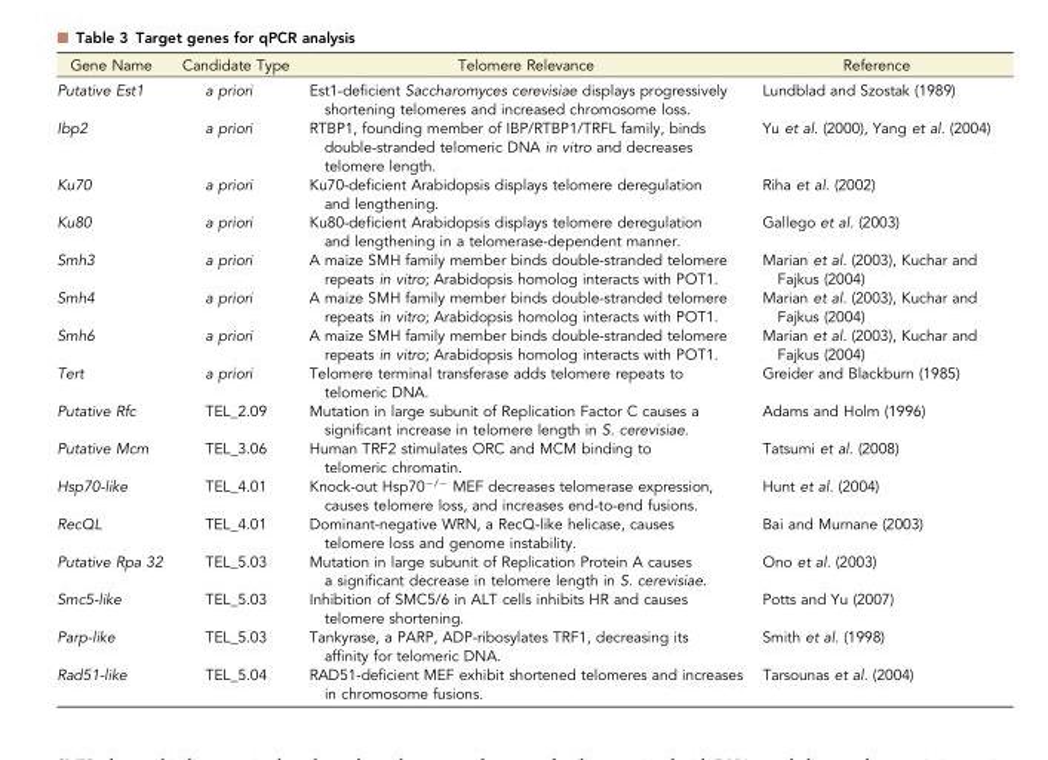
<table><thead><tr><td>Gene Name</td><td>Candidate Type</td><td>Telomere Relevance</td><td>Reference</td></tr></thead><tbody><tr><td>Putative Est1</td><td>a priori</td><td>Est1-deficient Saccharomyces cerevisiae displays progressively shortening telomeres and increased chromosome loss.</td><td>Lundblad and Szostak (1989)</td></tr><tr><td>Ibp2</td><td>a priori</td><td>RTBP1, founding member of IBP/RTBP1/TRFL family, binds double-stranded telomeric DNA in vitro and decreases telomere length.</td><td>Yu et al. (2000), Yang et al. (2004)</td></tr><tr><td>Ku70</td><td>a priori</td><td>Ku70-deficient Arabidopsis displays telomere deregulation and lengthening.</td><td>Riha et al. (2002)</td></tr><tr><td>Ku80</td><td>a priori</td><td>Ku80-deficient Arabidopsis displays telomere deregulation and lengthening in a telomerase-dependent manner.</td><td>Gallego et al. (2003)</td></tr><tr><td>Smh3</td><td>a priori</td><td>A maize SMH family member binds double-stranded telomere repeats in vitro; Arabidopsis homolog interacts with POT1.</td><td>Marian et al. (2003), Kuchar and Fajkus (2004)</td></tr><tr><td>Smh4</td><td>a priori</td><td>A maize SMH family member binds double-stranded telomere repeats in vitro; Arabidopsis homolog interacts with POT1.</td><td>Marian et al. (2003), Kuchar and Fajkus (2004)</td></tr><tr><td>Smh6</td><td>a priori</td><td>A maize SMH family member binds double-stranded telomere repeats in vitro; Arabidopsis homolog interacts with POT1.</td><td>Marian et al. (2003), Kuchar and Fajkus (2004)</td></tr><tr><td>Tert</td><td>a priori</td><td>Telomere terminal transferase adds telomere repeats to telomeric DNA.</td><td>Greider and Blackburn (1985)</td></tr><tr><td>Putative Rfc</td><td>TEL_2.09</td><td>Mutation in large subunit of Replication Factor C causes a significant increase in telomere length in S. cerevisiae.</td><td>Adams and Holm (1996)</td></tr><tr><td>Putative Mcm</td><td>TEL_3.06</td><td>Human TRF2 stimulates ORC and MCM binding to telomeric chromatin.</td><td>Tatsumi et al. (2008)</td></tr><tr><td>Hsp70-like</td><td>TEL_4.01</td><td>Knock-out Hsp70<sup>−/−</sup> MEF decreases telomerase expression, causes telomere loss, and increases end-to-end fusions.</td><td>Hunt et al. (2004)</td></tr><tr><td>RecQL</td><td>TEL_4.01</td><td>Dominant-negative WRN, a RecQ-like helicase, causes telomere loss and genome instability.</td><td>Bai and Murnane (2003)</td></tr><tr><td>Putative Rpa 32</td><td>TEL_5.03</td><td>Mutation in large subunit of Replication Protein A causes a significant decrease in telomere length in S. cerevisiae.</td><td>Ono et al. (2003)</td></tr><tr><td>Smc5-like</td><td>TEL_5.03</td><td>Inhibition of SMC5/6 in ALT cells inhibits HR and causes telomere shortening.</td><td>Potts and Yu (2007)</td></tr><tr><td>Parp-like</td><td>TEL_5.03</td><td>Tankyrase, a PARP, ADP-ribosylates TRF1, decreasing its affinity for telomeric DNA.</td><td>Smith et al. (1998)</td></tr><tr><td>Rad51-like</td><td>TEL_5.04</td><td>RAD51-deficient MEF exhibit shortened telomeres and increases in chromosome fusions.</td><td>Tarsounas et al. (2004)</td></tr></tbody></table>